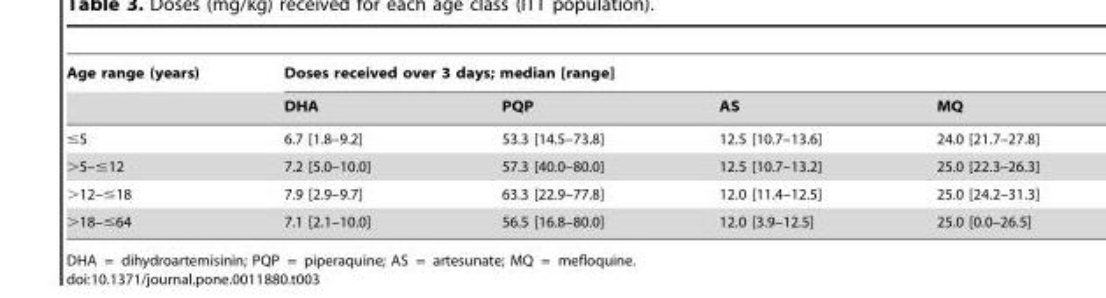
<table><thead><tr><td rowspan="2">Age range (years)</td><td colspan="4">Doses received over 3 days; median [range]</td></tr><tr><td>DHA</td><td>PQP</td><td>AS</td><td>MQ</td></tr></thead><tbody><tr><td>≤5</td><td>6.7 [1.8–9.2]</td><td>53.3 [14.5–73.8]</td><td>12.5 [10.7–13.6]</td><td>24.0 [21.7–27.8]</td></tr><tr><td>&gt;5–≤12</td><td>7.2 [5.0–10.0]</td><td>57.3 [40.0–80.0]</td><td>12.5 [10.7–13.2]</td><td>25.0 [22.3–26.3]</td></tr><tr><td>&gt;12–≤18</td><td>7.9 [2.9–9.7]</td><td>63.3 [22.9–77.8]</td><td>12.0 [11.4–12.5]</td><td>25.0 [24.2–31.3]</td></tr><tr><td>&gt;18–≤64</td><td>7.1 [2.1–10.0]</td><td>56.5 [16.8–80.0]</td><td>12.0 [3.9–12.5]</td><td>25.0 [0.0–26.5]</td></tr></tbody></table>